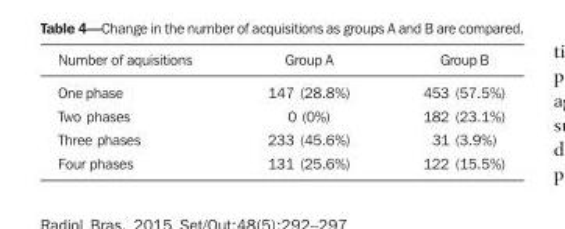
<table><thead><tr><td>Number of aquisitions</td><td>Group A</td><td>Group B</td></tr></thead><tbody><tr><td>One phase</td><td>147 (28.8%)</td><td>453 (57.5%)</td></tr><tr><td>Two phases</td><td>0 (0%)</td><td>182 (23.1%)</td></tr><tr><td>Three phases</td><td>233 (45.6%)</td><td>31 (3.9%)</td></tr><tr><td>Four phases</td><td>131 (25.6%)</td><td>122 (15.5%)</td></tr></tbody></table>